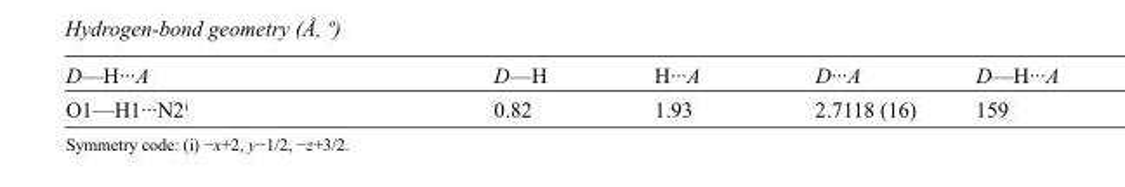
<table><tbody><tr><td>D—H···A</td><td>D—H</td><td>H···A</td><td>D···A</td><td>D—H···A</td></tr><tr><td>O1—H1···N2<sup>i</sup></td><td>0.82</td><td>1.93</td><td>2.7118 (16)</td><td>159</td></tr></tbody></table>